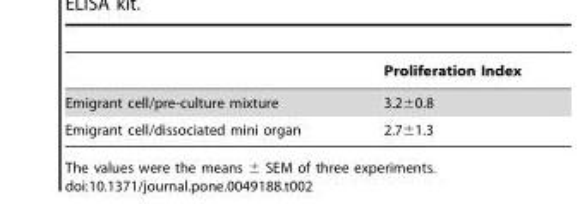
<table><thead><tr><td></td><td>Proliferation Index</td></tr></thead><tbody><tr><td>Emigrant cell/pre-culture mixture</td><td>3.2±0.8</td></tr><tr><td>Emigrant cell/dissociated mini organ</td><td>2.7±1.3</td></tr></tbody></table>